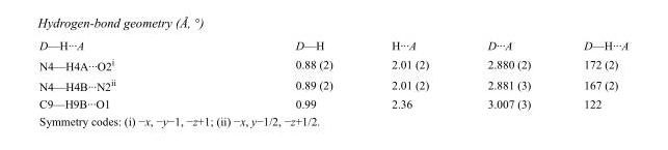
<table><tbody><tr><td>D—H···A</td><td>D—H</td><td>H···A</td><td>D···A</td><td>D—H···A</td></tr><tr><td>N4—H4A···O2<sup>i</sup></td><td>0.88 (2)</td><td>2.01 (2)</td><td>2.880 (2)</td><td>172 (2)</td></tr><tr><td>N4—H4B···N2<sup>ii</sup></td><td>0.89 (2)</td><td>2.01 (2)</td><td>2.881 (3)</td><td>167 (2)</td></tr><tr><td>C9—H9B···O1</td><td>0.99</td><td>2.36</td><td>3.007 (3)</td><td>122</td></tr></tbody></table>